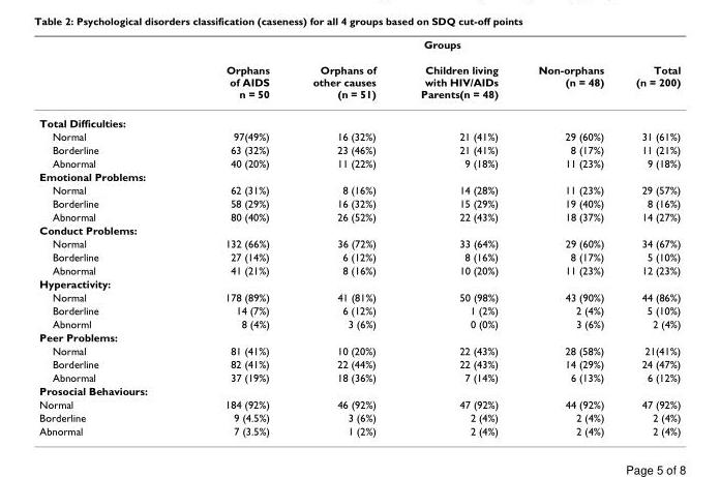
<table><thead><tr><td rowspan="2"></td><td colspan="5">Groups</td></tr><tr><td>Orphans of AIDS n = 50</td><td>Orphans of other causes (n = 51)</td><td>Children living with HIV/AIDs Parents(n = 48)</td><td>Non-orphans (n = 48)</td><td>Total (n = 200)</td></tr></thead><tbody><tr><td colspan="6">Total Difficulties:</td></tr><tr><td>Normal</td><td>97(49%)</td><td>16 (32%)</td><td>21 (41%)</td><td>29 (60%)</td><td>31 (61%)</td></tr><tr><td>Borderline</td><td>63 (32%)</td><td>23 (46%)</td><td>21 (41%)</td><td>8 (17%)</td><td>11 (21%)</td></tr><tr><td>Abnormal</td><td>40 (20%)</td><td>11 (22%)</td><td>9 (18%)</td><td>11 (23%)</td><td>9 (18%)</td></tr><tr><td colspan="6">Emotional Problems:</td></tr><tr><td>Normal</td><td>62 (31%)</td><td>8 (16%)</td><td>14 (28%)</td><td>11 (23%)</td><td>29 (57%)</td></tr><tr><td>Borderline</td><td>58 (29%)</td><td>16 (32%)</td><td>15 (29%)</td><td>19 (40%)</td><td>8 (16%)</td></tr><tr><td>Abnormal</td><td>80 (40%)</td><td>26 (52%)</td><td>22 (43%)</td><td>18 (37%)</td><td>14 (27%)</td></tr><tr><td colspan="6">Conduct Problems:</td></tr><tr><td>Normal</td><td>132 (66%)</td><td>36 (72%)</td><td>33 (64%)</td><td>29 (60%)</td><td>34 (67%)</td></tr><tr><td>Borderline</td><td>27 (14%)</td><td>6 (12%)</td><td>8 (16%)</td><td>8 (17%)</td><td>5 (10%)</td></tr><tr><td>Abnormal</td><td>41 (21%)</td><td>8 (16%)</td><td>10 (20%)</td><td>11 (23%)</td><td>12 (23%)</td></tr><tr><td colspan="6">Hyperactivity:</td></tr><tr><td>Normal</td><td>178 (89%)</td><td>41 (81%)</td><td>50 (98%)</td><td>43 (90%)</td><td>44 (86%)</td></tr><tr><td>Borderline</td><td>14 (7%)</td><td>6 (12%)</td><td>1 (2%)</td><td>2 (4%)</td><td>5 (10%)</td></tr><tr><td>Abnorml</td><td>8 (4%)</td><td>3 (6%)</td><td>0 (0%)</td><td>3 (6%)</td><td>2 (4%)</td></tr><tr><td colspan="6">Peer Problems:</td></tr><tr><td>Normal</td><td>81 (41%)</td><td>10 (20%)</td><td>22 (43%)</td><td>28 (58%)</td><td>21(41%)</td></tr><tr><td>Borderline</td><td>82 (41%)</td><td>22 (44%)</td><td>22 (43%)</td><td>14 (29%)</td><td>24 (47%)</td></tr><tr><td>Abnormal</td><td>37 (19%)</td><td>18 (36%)</td><td>7 (14%)</td><td>6 (13%)</td><td>6 (12%)</td></tr><tr><td colspan="6">Prosocial Behaviours:</td></tr><tr><td>Normal</td><td>184 (92%)</td><td>46 (92%)</td><td>47 (92%)</td><td>44 (92%)</td><td>47 (92%)</td></tr><tr><td>Borderline</td><td>9 (4.5%)</td><td>3 (6%)</td><td>2 (4%)</td><td>2 (4%)</td><td>2 (4%)</td></tr><tr><td>Abnormal</td><td>7 (3.5%)</td><td>1 (2%)</td><td>2 (4%)</td><td>2 (4%)</td><td>2 (4%)</td></tr></tbody></table>